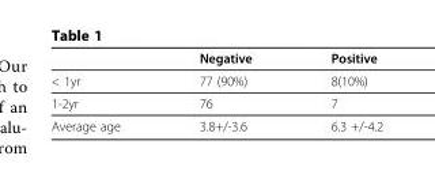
<table><thead><tr><td></td><td>Negative</td><td>Positive</td></tr></thead><tbody><tr><td>&lt; 1yr</td><td>77 (90%)</td><td>8(10%)</td></tr><tr><td>1-2yr</td><td>76</td><td>7</td></tr><tr><td>Average age</td><td>3.8+/-3.6</td><td>6.3 +/-4.2</td></tr></tbody></table>